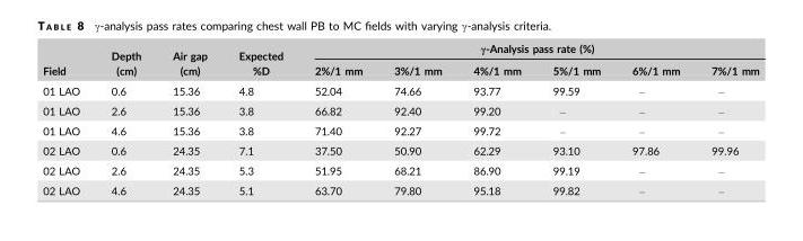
<table><thead><tr><td rowspan="2">Field</td><td rowspan="2">Depth (cm)</td><td rowspan="2">Air gap (cm)</td><td rowspan="2">Expected %D</td><td colspan="6">γ-Analysis pass rate (%)</td></tr><tr><td>2%/1 mm</td><td>3%/1 mm</td><td>4%/1 mm</td><td>5%/1 mm</td><td>6%/1 mm</td><td>7%/1 mm</td></tr></thead><tbody><tr><td>01 LAO</td><td>0.6</td><td>15.36</td><td>4.8</td><td>52.04</td><td>74.66</td><td>93.77</td><td>99.59</td><td>–</td><td>–</td></tr><tr><td>01 LAO</td><td>2.6</td><td>15.36</td><td>3.8</td><td>66.82</td><td>92.40</td><td>99.20</td><td>–</td><td>–</td><td>–</td></tr><tr><td>01 LAO</td><td>4.6</td><td>15.36</td><td>3.8</td><td>71.40</td><td>92.27</td><td>99.72</td><td>–</td><td>–</td><td>–</td></tr><tr><td>02 LAO</td><td>0.6</td><td>24.35</td><td>7.1</td><td>37.50</td><td>50.90</td><td>62.29</td><td>93.10</td><td>97.86</td><td>99.96</td></tr><tr><td>02 LAO</td><td>2.6</td><td>24.35</td><td>5.3</td><td>51.95</td><td>68.21</td><td>86.90</td><td>99.19</td><td>–</td><td>–</td></tr><tr><td>02 LAO</td><td>4.6</td><td>24.35</td><td>5.1</td><td>63.70</td><td>79.80</td><td>95.18</td><td>99.82</td><td>–</td><td>–</td></tr></tbody></table>